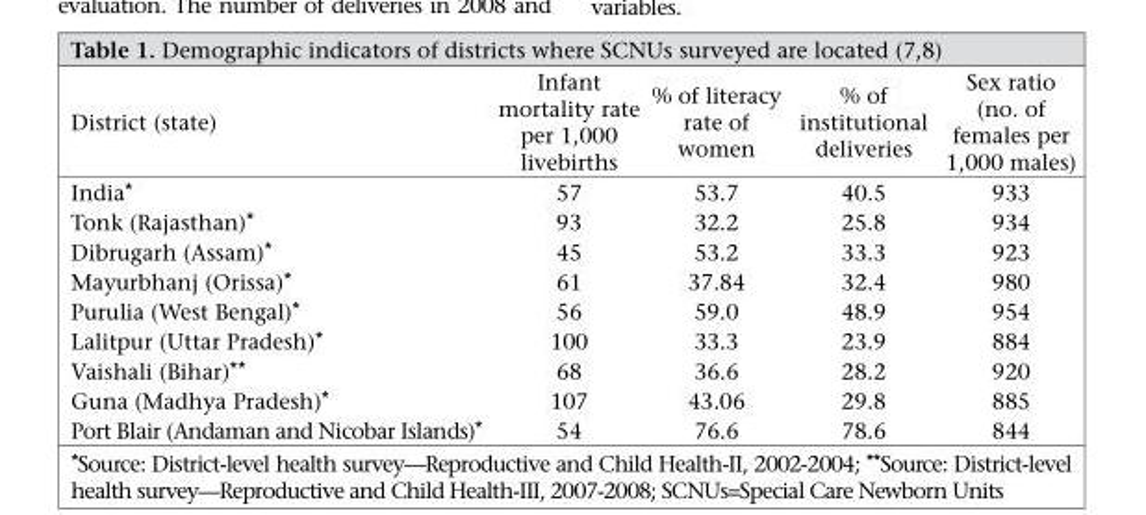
<table><thead><tr><td>District (state)</td><td>Infant mortality rate per 1,000 livebirths</td><td>% of literacy rate of women</td><td>% of institutional deliveries</td><td>Sex ratio (no. of females per 1,000 males)</td></tr></thead><tbody><tr><td>India*</td><td>57</td><td>53.7</td><td>40.5</td><td>933</td></tr><tr><td>Tonk (Rajasthan)*</td><td>93</td><td>32.2</td><td>25.8</td><td>934</td></tr><tr><td>Dibrugarh (Assam)*</td><td>45</td><td>53.2</td><td>33.3</td><td>923</td></tr><tr><td>Mayurbhanj (Orissa)*</td><td>61</td><td>37.84</td><td>32.4</td><td>980</td></tr><tr><td>Purulia (West Bengal)*</td><td>56</td><td>59.0</td><td>48.9</td><td>954</td></tr><tr><td>Lalitpur (Uttar Pradesh)*</td><td>100</td><td>33.3</td><td>23.9</td><td>884</td></tr><tr><td>Vaishali (Bihar)**</td><td>68</td><td>36.6</td><td>28.2</td><td>920</td></tr><tr><td>Guna (Madhya Pradesh)*</td><td>107</td><td>43.06</td><td>29.8</td><td>885</td></tr><tr><td>Port Blair (Andaman and Nicobar Islands)*</td><td>54</td><td>76.6</td><td>78.6</td><td>844</td></tr></tbody></table>